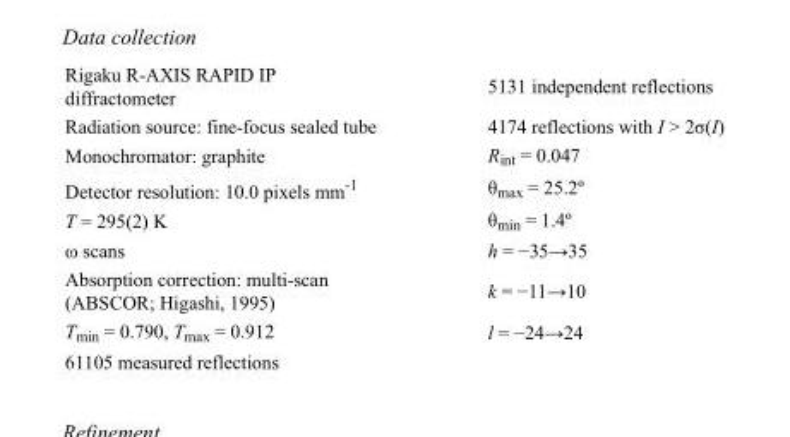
<table><tbody><tr><td>Rigaku R-AXIS RAPID IP diffractometer</td><td>5131 independent reflections</td></tr><tr><td>Radiation source: fine-focus sealed tube</td><td>4174 reflections with I &gt; 2σ(I)</td></tr><tr><td>Monochromator: graphite</td><td>R<sub>int</sub> = 0.047</td></tr><tr><td>Detector resolution: 10.0 pixels mm<sup>-1</sup></td><td>θ<sub>max</sub> = 25.2º</td></tr><tr><td>T = 295(2) K</td><td>θ<sub>min</sub> = 1.4º</td></tr><tr><td>ω scans</td><td>h = −35→35</td></tr><tr><td>Absorption correction: multi-scan (ABSCOR; Higashi, 1995)</td><td>k = −11→10</td></tr><tr><td>T<sub>min</sub> = 0.790, T<sub>max</sub> = 0.912</td><td>l = −24→24</td></tr><tr><td>61105 measured reflections</td><td></td></tr></tbody></table>